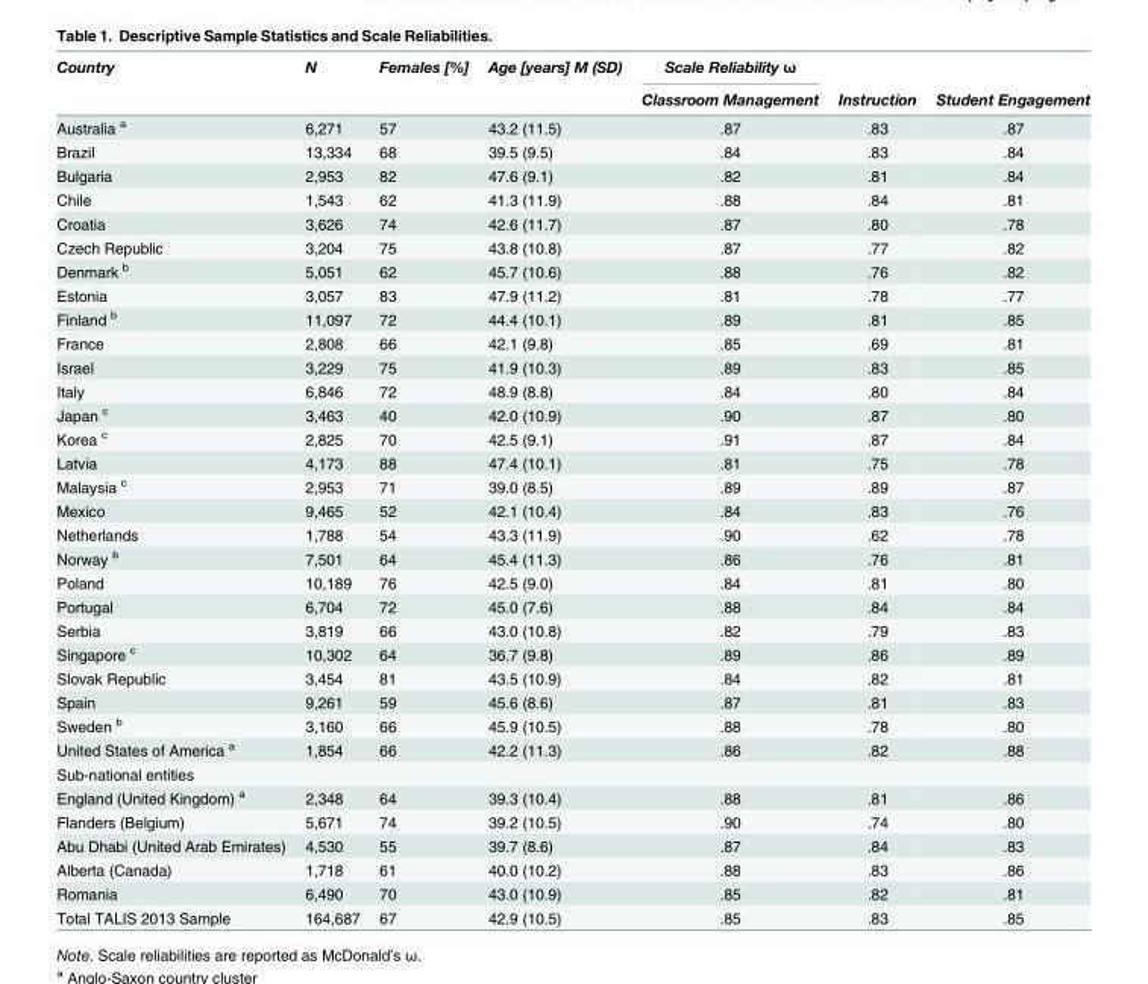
<table><thead><tr><td rowspan="2">Country</td><td rowspan="2">N</td><td rowspan="2">Females [%]</td><td rowspan="2">Age [years] M (SD)</td><td rowspan="2">Scale Reliability ω Classroom Management</td><td rowspan="2">Instruction</td><td rowspan="2">Student Engagement</td></tr><tr></tr></thead><tbody><tr><td>Australia <sup>a</sup></td><td>6,271</td><td>57</td><td>43.2 (11.5)</td><td>.87</td><td>.83</td><td>.87</td></tr><tr><td>Brazil</td><td>13,334</td><td>68</td><td>39.5 (9.5)</td><td>.84</td><td>.83</td><td>.84</td></tr><tr><td>Bulgaria</td><td>2,953</td><td>82</td><td>47.6 (9.1)</td><td>.82</td><td>.81</td><td>.84</td></tr><tr><td>Chile</td><td>1,543</td><td>62</td><td>41.3 (11.9)</td><td>.88</td><td>.84</td><td>.81</td></tr><tr><td>Croatia</td><td>3,626</td><td>74</td><td>42.6 (11.7)</td><td>.87</td><td>.80</td><td>.78</td></tr><tr><td>Czech Republic</td><td>3,204</td><td>75</td><td>43.8 (10.8)</td><td>.87</td><td>.77</td><td>.82</td></tr><tr><td>Denmark <sup>b</sup></td><td>5,051</td><td>62</td><td>45.7 (10.6)</td><td>.88</td><td>.76</td><td>.82</td></tr><tr><td>Estonia</td><td>3,057</td><td>83</td><td>47.9 (11.2)</td><td>.81</td><td>.78</td><td>.77</td></tr><tr><td>Finland <sup>b</sup></td><td>11,097</td><td>72</td><td>44.4 (10.1)</td><td>.89</td><td>.81</td><td>.85</td></tr><tr><td>France</td><td>2,808</td><td>66</td><td>42.1 (9.8)</td><td>.85</td><td>.69</td><td>.81</td></tr><tr><td>Israel</td><td>3,229</td><td>75</td><td>41.9 (10.3)</td><td>.89</td><td>.83</td><td>.85</td></tr><tr><td>Italy</td><td>6,846</td><td>72</td><td>48.9 (8.8)</td><td>.84</td><td>.80</td><td>.84</td></tr><tr><td>Japan <sup>c</sup></td><td>3,463</td><td>40</td><td>42.0 (10.9)</td><td>.90</td><td>.87</td><td>.80</td></tr><tr><td>Korea <sup>c</sup></td><td>2,825</td><td>70</td><td>42.5 (9.1)</td><td>.91</td><td>.87</td><td>.84</td></tr><tr><td>Latvia</td><td>4,173</td><td>88</td><td>47.4 (10.1)</td><td>.81</td><td>.75</td><td>.78</td></tr><tr><td>Malaysia <sup>c</sup></td><td>2,953</td><td>71</td><td>39.0 (8.5)</td><td>.89</td><td>.89</td><td>.87</td></tr><tr><td>Mexico</td><td>9,465</td><td>52</td><td>42.1 (10.4)</td><td>.84</td><td>.83</td><td>.76</td></tr><tr><td>Netherlands</td><td>1,788</td><td>54</td><td>43.3 (11.9)</td><td>.90</td><td>.62</td><td>.78</td></tr><tr><td>Norway <sup>b</sup></td><td>7,501</td><td>64</td><td>45.4 (11.3)</td><td>.86</td><td>.76</td><td>.81</td></tr><tr><td>Poland</td><td>10,189</td><td>76</td><td>42.5 (9.0)</td><td>.84</td><td>.81</td><td>.80</td></tr><tr><td>Portugal</td><td>6,704</td><td>72</td><td>45.0 (7.6)</td><td>.88</td><td>.84</td><td>.84</td></tr><tr><td>Serbia</td><td>3,819</td><td>66</td><td>43.0 (10.8)</td><td>.82</td><td>.79</td><td>.83</td></tr><tr><td>Singapore <sup>c</sup></td><td>10,302</td><td>64</td><td>36.7 (9.8)</td><td>.89</td><td>.86</td><td>.89</td></tr><tr><td>Slovak Republic</td><td>3,454</td><td>81</td><td>43.5 (10.9)</td><td>.84</td><td>.82</td><td>.81</td></tr><tr><td>Spain</td><td>9,261</td><td>59</td><td>45.6 (8.6)</td><td>.87</td><td>.81</td><td>.83</td></tr><tr><td>Sweden <sup>b</sup></td><td>3,160</td><td>66</td><td>45.9 (10.5)</td><td>.88</td><td>.78</td><td>.80</td></tr><tr><td>United States of America <sup>a</sup></td><td>1,854</td><td>66</td><td>42.2 (11.3)</td><td>.86</td><td>.82</td><td>.88</td></tr><tr><td colspan="7">Sub-national entities</td></tr><tr><td>England (United Kingdom) <sup>a</sup></td><td>2,348</td><td>64</td><td>39.3 (10.4)</td><td>.88</td><td>.81</td><td>.86</td></tr><tr><td>Flanders (Belgium)</td><td>5,671</td><td>74</td><td>39.2 (10.5)</td><td>.90</td><td>.74</td><td>.80</td></tr><tr><td>Abu Dhabi (United Arab Emirates)</td><td>4,530</td><td>55</td><td>39.7 (8.6)</td><td>.87</td><td>.84</td><td>.83</td></tr><tr><td>Alberta (Canada)</td><td>1,718</td><td>61</td><td>40.0 (10.2)</td><td>.88</td><td>.83</td><td>.86</td></tr><tr><td>Romania</td><td>6,490</td><td>70</td><td>43.0 (10.9)</td><td>.85</td><td>.82</td><td>.81</td></tr><tr><td>Total TALIS 2013 Sample</td><td>164,687</td><td>67</td><td>42.9 (10.5)</td><td>.85</td><td>.83</td><td>.85</td></tr></tbody></table>